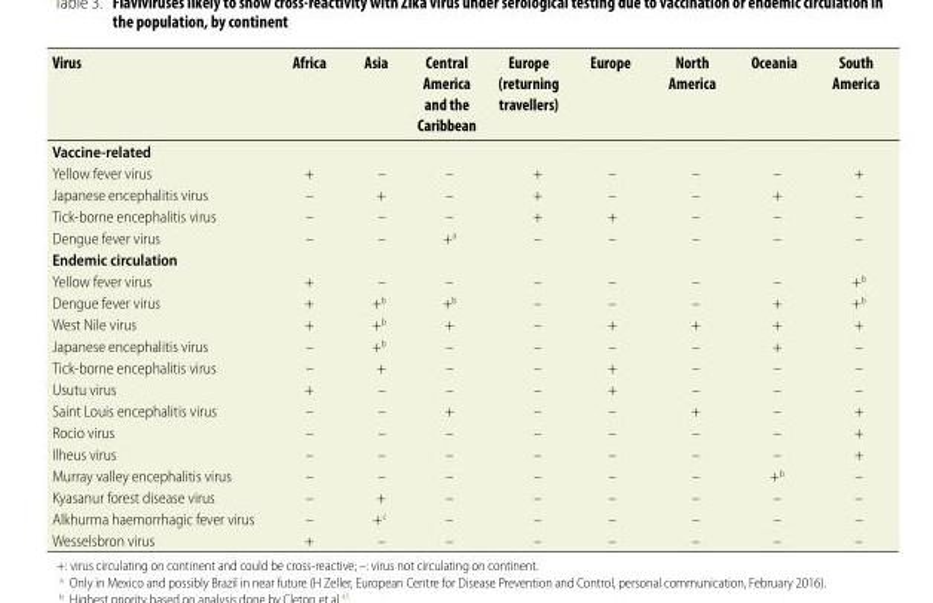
<table><thead><tr><td>Virus</td><td>Africa</td><td>Asia</td><td>Central America and the Caribbean</td><td>Europe (returning travellers)</td><td>Europe</td><td>North America</td><td>Oceania</td><td>South America</td></tr></thead><tbody><tr><td colspan="9">Vaccine-related</td></tr><tr><td>Yellow fever virus</td><td>+</td><td>–</td><td>–</td><td>+</td><td>–</td><td>–</td><td>–</td><td>+</td></tr><tr><td>Japanese encephalitis virus</td><td>–</td><td>+</td><td>–</td><td>+</td><td>–</td><td>–</td><td>+</td><td>–</td></tr><tr><td>Tick-borne encephalitis virus</td><td>–</td><td>–</td><td>–</td><td>+</td><td>+</td><td>–</td><td>–</td><td>–</td></tr><tr><td>Dengue fever virus</td><td>–</td><td>–</td><td>+<sup>a</sup></td><td>–</td><td>–</td><td>–</td><td>–</td><td>–</td></tr><tr><td colspan="9">Endemic circulation</td></tr><tr><td>Yellow fever virus</td><td>+</td><td>–</td><td>–</td><td>–</td><td>–</td><td>–</td><td>–</td><td>+<sup>b</sup></td></tr><tr><td>Dengue fever virus</td><td>+</td><td>+<sup>b</sup></td><td>+<sup>b</sup></td><td>–</td><td>–</td><td>–</td><td>+</td><td>+<sup>b</sup></td></tr><tr><td>West Nile virus</td><td>+</td><td>+<sup>b</sup></td><td>+</td><td>–</td><td>+</td><td>+</td><td>+</td><td>+</td></tr><tr><td>Japanese encephalitis virus</td><td>–</td><td>+<sup>b</sup></td><td>–</td><td>–</td><td>–</td><td>–</td><td>+</td><td>–</td></tr><tr><td>Tick-borne encephalitis virus</td><td>–</td><td>+</td><td>–</td><td>–</td><td>+</td><td>–</td><td>–</td><td>–</td></tr><tr><td>Usutu virus</td><td>+</td><td>–</td><td>–</td><td>–</td><td>+</td><td>–</td><td>–</td><td>–</td></tr><tr><td>Saint Louis encephalitis virus</td><td>–</td><td>–</td><td>+</td><td>–</td><td>–</td><td>+</td><td>–</td><td>+</td></tr><tr><td>Rocio virus</td><td>–</td><td>–</td><td>–</td><td>–</td><td>–</td><td>–</td><td>–</td><td>+</td></tr><tr><td>Ilheus virus</td><td>–</td><td>–</td><td>–</td><td>–</td><td>–</td><td>–</td><td>–</td><td>+</td></tr><tr><td>Murray valley encephalitis virus</td><td>–</td><td>–</td><td>–</td><td>–</td><td>–</td><td>–</td><td>+<sup>b</sup></td><td>–</td></tr><tr><td>Kyasanur forest disease virus</td><td>–</td><td>+</td><td>–</td><td>–</td><td>–</td><td>–</td><td>–</td><td>–</td></tr><tr><td>Alkhurma haemorrhagic fever virus</td><td>–</td><td>+<sup>c</sup></td><td>–</td><td>–</td><td>–</td><td>–</td><td>–</td><td>–</td></tr><tr><td>Wesselsbron virus</td><td>+</td><td>–</td><td>–</td><td>–</td><td>–</td><td>–</td><td>–</td><td>–</td></tr></tbody></table>